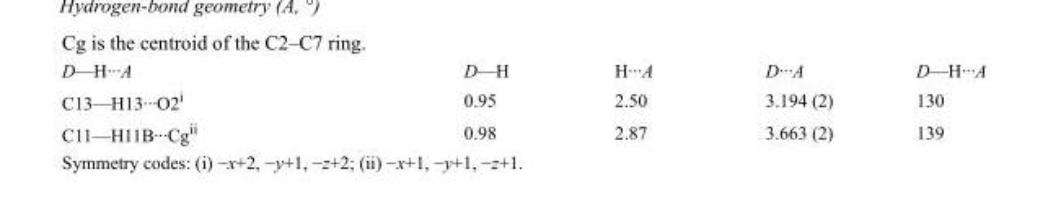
<table><tbody><tr><td>D—H···A</td><td>D—H</td><td>H···A</td><td>D···A</td><td>D—H···A</td></tr><tr><td>C13—H13···O2<sup>i</sup></td><td>0.95</td><td>2.50</td><td>3.194 (2)</td><td>130</td></tr><tr><td>C11—H11B···Cg<sup>ii</sup></td><td>0.98</td><td>2.87</td><td>3.663 (2)</td><td>139</td></tr></tbody></table>